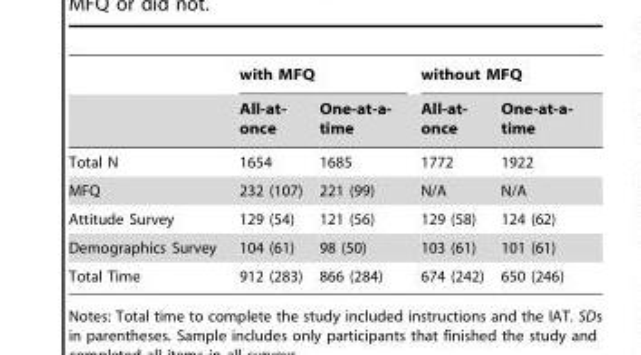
<table><thead><tr><td rowspan="2"></td><td colspan="2">with MFQ</td><td colspan="2">without MFQ</td></tr><tr><td>All-at- once</td><td>One-at-a- time</td><td>All-at- once</td><td>One-at-a- time</td></tr></thead><tbody><tr><td>Total N</td><td>1654</td><td>1685</td><td>1772</td><td>1922</td></tr><tr><td>MFQ</td><td>232 (107)</td><td>221 (99)</td><td>N/A</td><td>N/A</td></tr><tr><td>Attitude Survey</td><td>129 (54)</td><td>121 (56)</td><td>129 (58)</td><td>124 (62)</td></tr><tr><td>Demographics Survey</td><td>104 (61)</td><td>98 (50)</td><td>103 (61)</td><td>101 (61)</td></tr><tr><td>Total Time</td><td>912 (283)</td><td>866 (284)</td><td>674 (242)</td><td>650 (246)</td></tr></tbody></table>